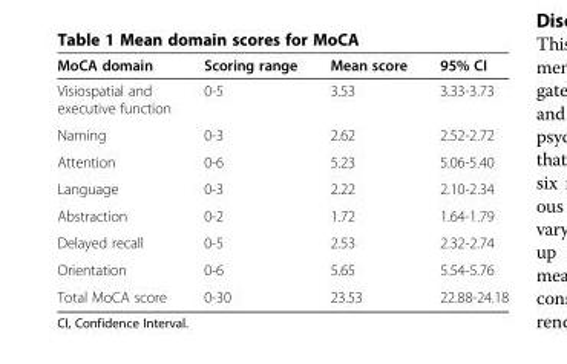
<table><thead><tr><td>MoCA domain</td><td>Scoring range</td><td>Mean score</td><td>95% CI</td></tr></thead><tbody><tr><td>Visiospatial and executive function</td><td>0-5</td><td>3.53</td><td>3.33-3.73</td></tr><tr><td>Naming</td><td>0-3</td><td>2.62</td><td>2.52-2.72</td></tr><tr><td>Attention</td><td>0-6</td><td>5.23</td><td>5.06-5.40</td></tr><tr><td>Language</td><td>0-3</td><td>2.22</td><td>2.10-2.34</td></tr><tr><td>Abstraction</td><td>0-2</td><td>1.72</td><td>1.64-1.79</td></tr><tr><td>Delayed recall</td><td>0-5</td><td>2.53</td><td>2.32-2.74</td></tr><tr><td>Orientation</td><td>0-6</td><td>5.65</td><td>5.54-5.76</td></tr><tr><td>Total MoCA score</td><td>0-30</td><td>23.53</td><td>22.88-24.18</td></tr></tbody></table>